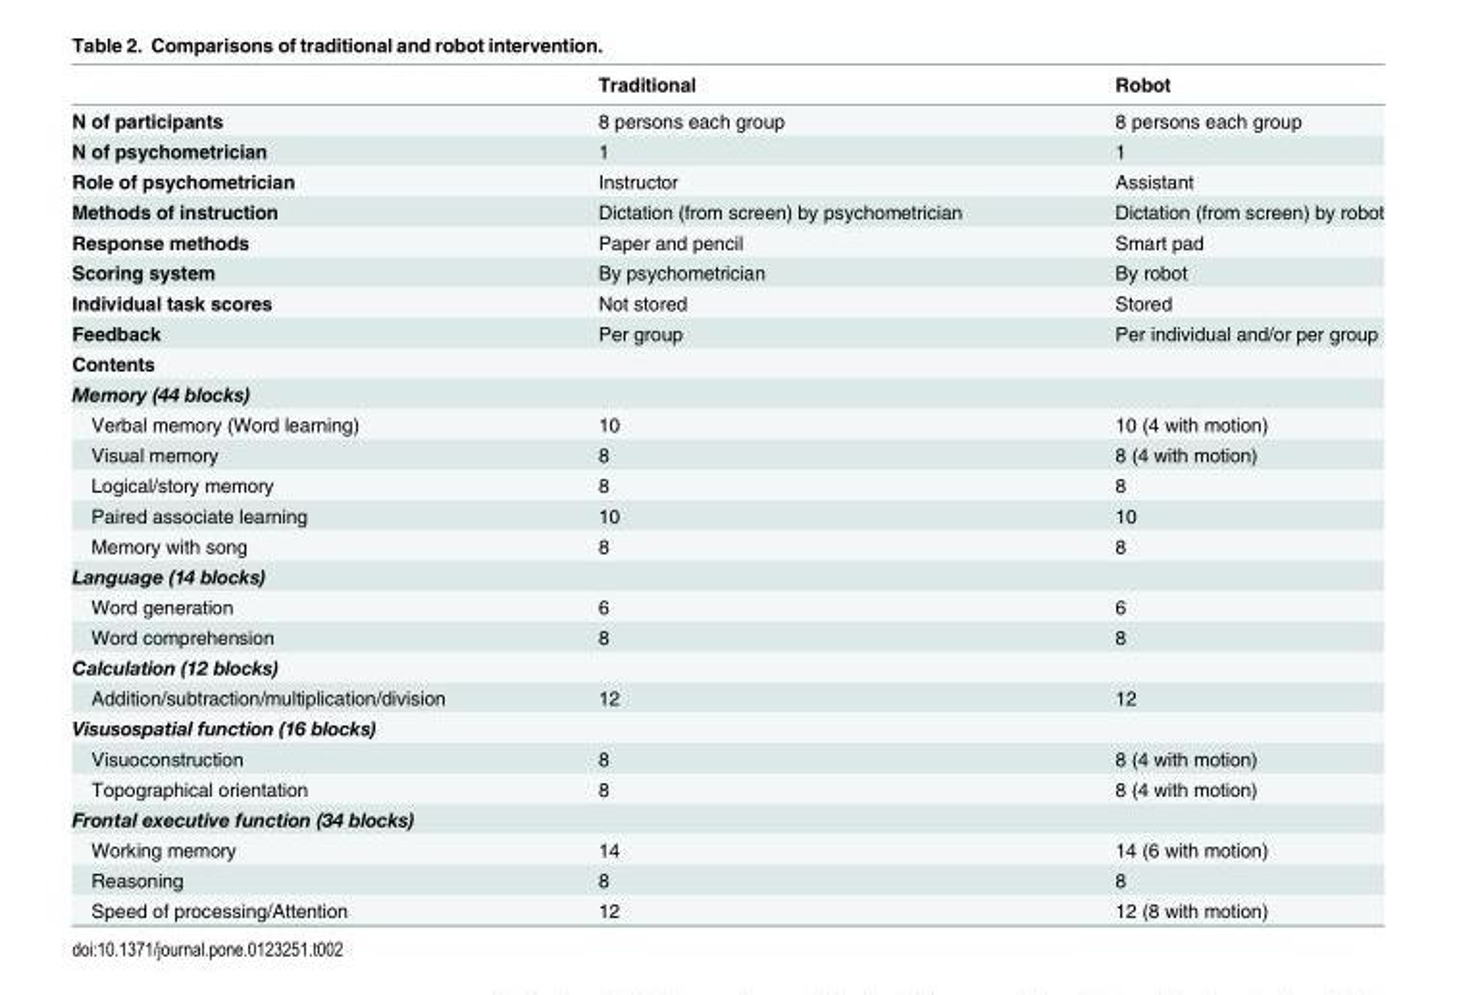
<table><thead><tr><td></td><td>Traditional</td><td>Robot</td></tr></thead><tbody><tr><td>N of participants</td><td>8 persons each group</td><td>8 persons each group</td></tr><tr><td>N of psychometrician</td><td>1</td><td>1</td></tr><tr><td>Role of psychometrician</td><td>Instructor</td><td>Assistant</td></tr><tr><td>Methods of instruction</td><td>Dictation (from screen) by psychometrician</td><td>Dictation (from screen) by robot</td></tr><tr><td>Response methods</td><td>Paper and pencil</td><td>Smart pad</td></tr><tr><td>Scoring system</td><td>By psychometrician</td><td>By robot</td></tr><tr><td>Individual task scores</td><td>Not stored</td><td>Stored</td></tr><tr><td>Feedback</td><td>Per group</td><td>Per individual and/or per group</td></tr><tr><td colspan="3">Contents</td></tr><tr><td colspan="3">Memory (44 blocks)</td></tr><tr><td>Verbal memory (Word learning)</td><td>10</td><td>10 (4 with motion)</td></tr><tr><td>Visual memory</td><td>8</td><td>8 (4 with motion)</td></tr><tr><td>Logical/story memory</td><td>8</td><td>8</td></tr><tr><td>Paired associate learning</td><td>10</td><td>10</td></tr><tr><td>Memory with song</td><td>8</td><td>8</td></tr><tr><td colspan="3">Language (14 blocks)</td></tr><tr><td>Word generation</td><td>6</td><td>6</td></tr><tr><td>Word comprehension</td><td>8</td><td>8</td></tr><tr><td colspan="3">Calculation (12 blocks)</td></tr><tr><td>Addition/subtraction/multiplication/division</td><td>12</td><td>12</td></tr><tr><td colspan="3">Visusospatial function (16 blocks)</td></tr><tr><td>Visuoconstruction</td><td>8</td><td>8 (4 with motion)</td></tr><tr><td>Topographical orientation</td><td>8</td><td>8 (4 with motion)</td></tr><tr><td colspan="3">Frontal executive function (34 blocks)</td></tr><tr><td>Working memory</td><td>14</td><td>14 (6 with motion)</td></tr><tr><td>Reasoning</td><td>8</td><td>8</td></tr><tr><td>Speed of processing/Attention</td><td>12</td><td>12 (8 with motion)</td></tr></tbody></table>